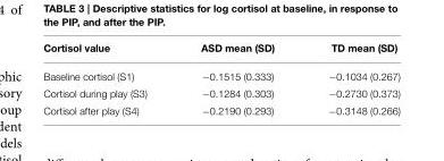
<table><thead><tr><td>Cortisol value</td><td>ASD mean (SD)</td><td>TD mean (SD)</td></tr></thead><tbody><tr><td>Baseline cortisol (S1)</td><td>−0.1515 (0.333)</td><td>−0.1034 (0.267)</td></tr><tr><td>Cortisol during play (S3)</td><td>−0.1284 (0.303)</td><td>−0.2730 (0.373)</td></tr><tr><td>Cortisol after play (S4)</td><td>−0.2190 (0.293)</td><td>−0.3148 (0.266)</td></tr></tbody></table>